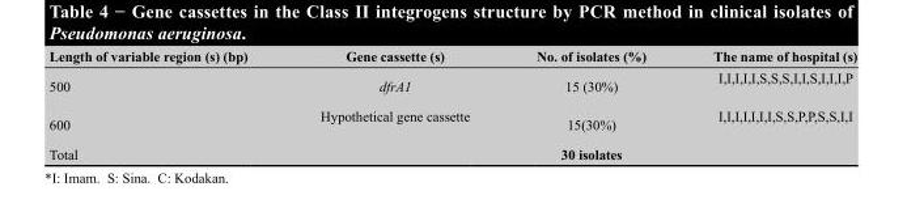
<table><thead><tr><td>Length of variable region (s) (bp)</td><td>Gene cassette (s)</td><td>No. of isolates (%)</td><td>The name of hospital (s)</td></tr></thead><tbody><tr><td>500</td><td>dfrA1</td><td>15 (30%)</td><td>I,I,I,I,I,S,S,S,I,I,S,I,I,I,P</td></tr><tr><td>600</td><td>Hypothetical gene cassette</td><td>15(30%)</td><td>I,I,I,I,I,I,I,S,S,P,P,S,S,I,I</td></tr><tr><td>Total</td><td></td><td>30 isolates</td><td></td></tr></tbody></table>